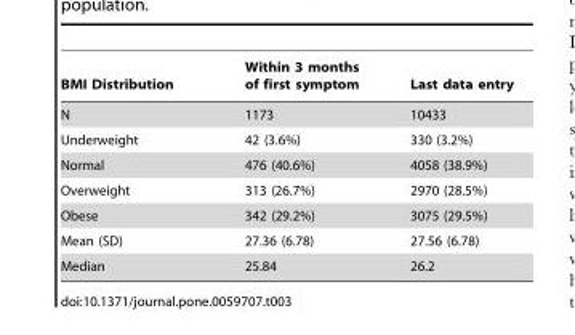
<table><thead><tr><td>BMI Distribution</td><td>Within 3 months of first symptom</td><td>Last data entry</td></tr></thead><tbody><tr><td>N</td><td>1173</td><td>10433</td></tr><tr><td>Underweight</td><td>42 (3.6%)</td><td>330 (3.2%)</td></tr><tr><td>Normal</td><td>476 (40.6%)</td><td>4058 (38.9%)</td></tr><tr><td>Overweight</td><td>313 (26.7%)</td><td>2970 (28.5%)</td></tr><tr><td>Obese</td><td>342 (29.2%)</td><td>3075 (29.5%)</td></tr><tr><td>Mean (SD)</td><td>27.36 (6.78)</td><td>27.56 (6.78)</td></tr><tr><td>Median</td><td>25.84</td><td>26.2</td></tr></tbody></table>